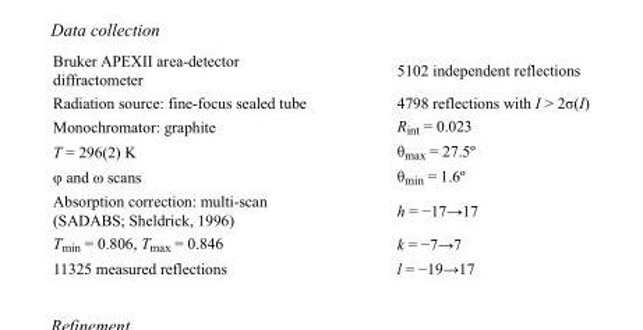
<table><tbody><tr><td>Bruker APEXII area-detector diffractometer</td><td>5102 independent reflections</td></tr><tr><td>Radiation source: fine-focus sealed tube</td><td>4798 reflections with I &gt; 2σ(I)</td></tr><tr><td>Monochromator: graphite</td><td>R<sub>int</sub> = 0.023</td></tr><tr><td>T = 296(2) K</td><td>θ<sub>max</sub> = 27.5º</td></tr><tr><td>φ and ω scans</td><td>θ<sub>min</sub> = 1.6º</td></tr><tr><td>Absorption correction: multi-scan (SADABS; Sheldrick, 1996)</td><td>h = −17→17</td></tr><tr><td>T<sub>min</sub> = 0.806, T<sub>max</sub> = 0.846</td><td>k = −7→7</td></tr><tr><td>11325 measured reflections</td><td>l = −19→17</td></tr></tbody></table>